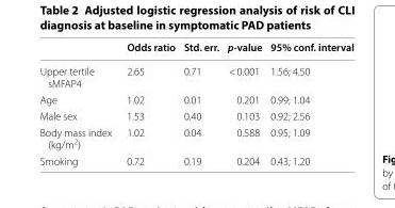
<table><thead><tr><td></td><td>Odds ratio</td><td>Std. err.</td><td>p-value</td><td>95% conf. interval</td></tr></thead><tbody><tr><td>Upper tertile sMFAP4</td><td>2.65</td><td>0.71</td><td>&lt; 0.001</td><td>1.56; 4.50</td></tr><tr><td>Age</td><td>1.02</td><td>0.01</td><td>0.201</td><td>0.99; 1.04</td></tr><tr><td>Male sex</td><td>1.53</td><td>0.40</td><td>0.103</td><td>0.92; 2.56</td></tr><tr><td>Body mass index (kg/m<sup>2</sup>)</td><td>1.02</td><td>0.04</td><td>0.588</td><td>0.95; 1.09</td></tr><tr><td>Smoking</td><td>0.72</td><td>0.19</td><td>0.204</td><td>0.43; 1.20</td></tr></tbody></table>